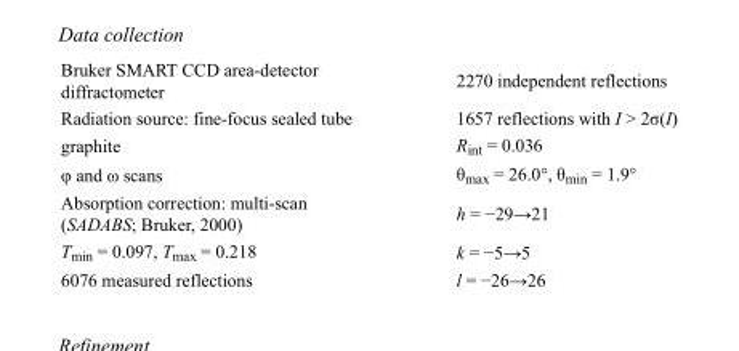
<table><tbody><tr><td>Bruker SMART CCD area-detector diffractometer</td><td>2270 independent reflections</td></tr><tr><td>Radiation source: fine-focus sealed tube</td><td>1657 reflections with I &gt; 2σ(I)</td></tr><tr><td>graphite</td><td>R<sub>int</sub> = 0.036</td></tr><tr><td>φ and ω scans</td><td>θ<sub>max</sub> = 26.0°, θ<sub>min</sub> = 1.9°</td></tr><tr><td>Absorption correction: multi-scan (SADABS; Bruker, 2000)</td><td>h = −29→21</td></tr><tr><td>T<sub>min</sub> = 0.097, T<sub>max</sub> = 0.218</td><td>k = −5→5</td></tr><tr><td>6076 measured reflections</td><td>l = −26→26</td></tr></tbody></table>